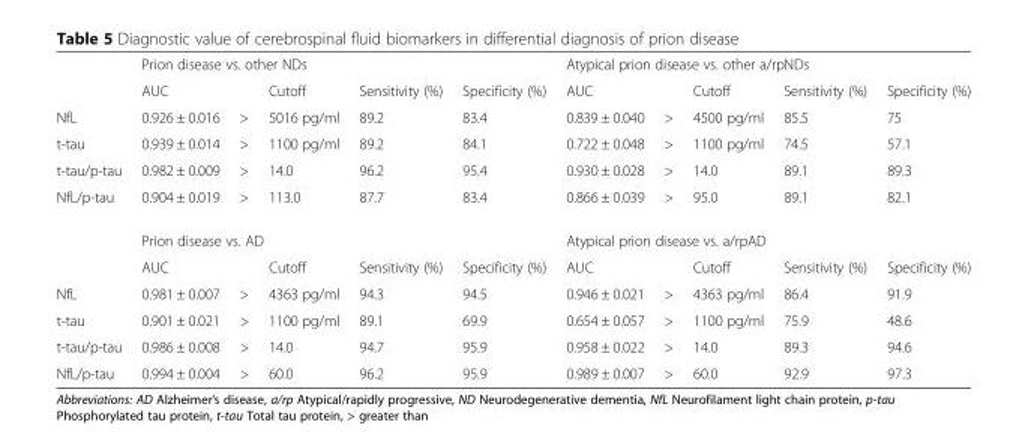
<table><thead><tr><td rowspan="2"></td><td colspan="5">Prion disease vs. other NDs</td><td colspan="5">Atypical prion disease vs. other a/rpNDs</td></tr><tr><td>AUC</td><td></td><td>Cutoff</td><td>Sensitivity (%)</td><td>Specificity (%)</td><td>AUC</td><td></td><td>Cutoff</td><td>Sensitivity (%)</td><td>Specificity (%)</td></tr></thead><tbody><tr><td>NfL</td><td>0.926 ± 0.016</td><td>&gt;</td><td>5016 pg/ml</td><td>89.2</td><td>83.4</td><td>0.839 ± 0.040</td><td>&gt;</td><td>4500 pg/ml</td><td>85.5</td><td>75</td></tr><tr><td>t-tau</td><td>0.939 ± 0.014</td><td>&gt;</td><td>1100 pg/ml</td><td>89.2</td><td>84.1</td><td>0.722 ± 0.048</td><td>&gt;</td><td>1100 pg/ml</td><td>74.5</td><td>57.1</td></tr><tr><td>t-tau/p-tau</td><td>0.982 ± 0.009</td><td>&gt;</td><td>14.0</td><td>96.2</td><td>95.4</td><td>0.930 ± 0.028</td><td>&gt;</td><td>14.0</td><td>89.1</td><td>89.3</td></tr><tr><td rowspan="3">NfL/p-tau</td><td>0.904 ± 0.019</td><td>&gt;</td><td>113.0</td><td>87.7</td><td>83.4</td><td>0.866 ± 0.039</td><td>&gt;</td><td>95.0</td><td>89.1</td><td>82.1</td></tr><tr><td colspan="5">Prion disease vs. AD</td><td colspan="5">Atypical prion disease vs. a/rpAD</td></tr><tr><td>AUC</td><td></td><td>Cutoff</td><td>Sensitivity (%)</td><td>Specificity (%)</td><td>AUC</td><td></td><td>Cutoff</td><td>Sensitivity (%)</td><td>Specificity (%)</td></tr><tr><td>NfL</td><td>0.981 ± 0.007</td><td>&gt;</td><td>4363 pg/ml</td><td>94.3</td><td>94.5</td><td>0.946 ± 0.021</td><td>&gt;</td><td>4363 pg/ml</td><td>86.4</td><td>91.9</td></tr><tr><td>t-tau</td><td>0.901 ± 0.021</td><td>&gt;</td><td>1100 pg/ml</td><td>89.1</td><td>69.9</td><td>0.654 ± 0.057</td><td>&gt;</td><td>1100 pg/ml</td><td>75.9</td><td>48.6</td></tr><tr><td>t-tau/p-tau</td><td>0.986 ± 0.008</td><td>&gt;</td><td>14.0</td><td>94.7</td><td>95.9</td><td>0.958 ± 0.022</td><td>&gt;</td><td>14.0</td><td>89.3</td><td>94.6</td></tr><tr><td>NfL/p-tau</td><td>0.994 ± 0.004</td><td>&gt;</td><td>60.0</td><td>96.2</td><td>95.9</td><td>0.989 ± 0.007</td><td>&gt;</td><td>60.0</td><td>92.9</td><td>97.3</td></tr></tbody></table>